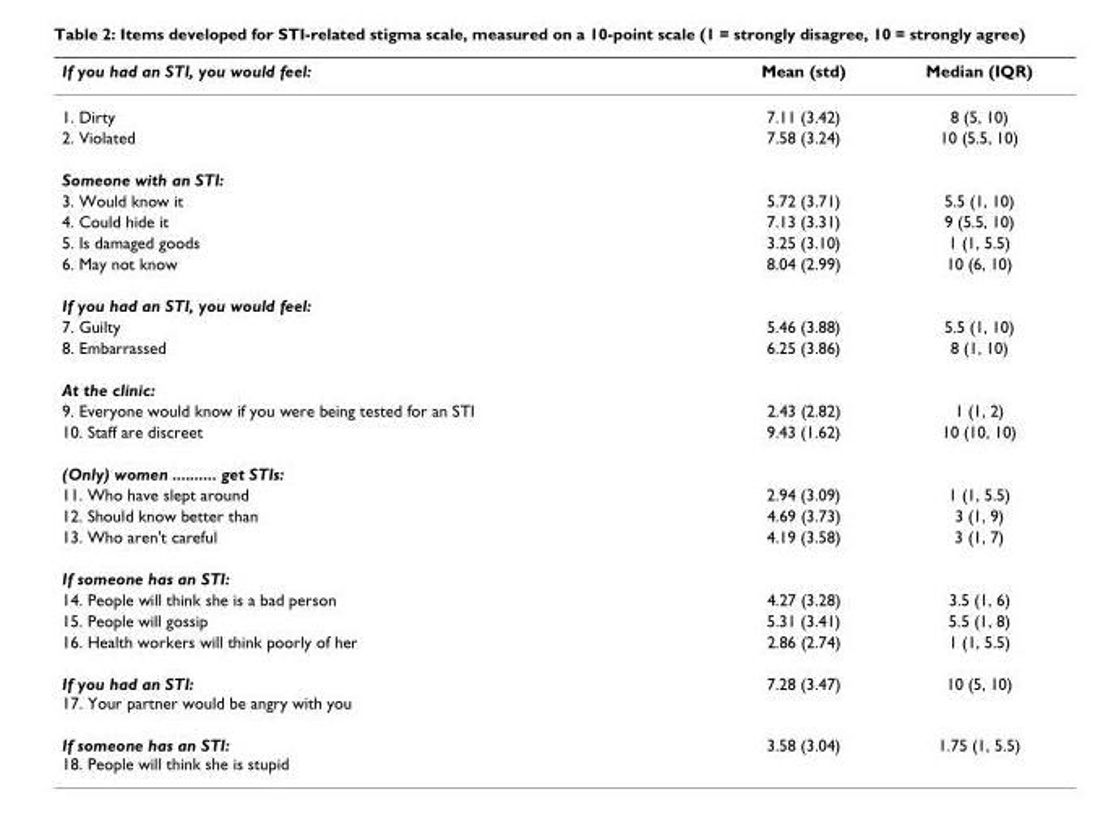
<table><thead><tr><td>If you had an STI, you would feel:</td><td>Mean (std)</td><td>Median (IQR)</td></tr></thead><tbody><tr><td>1. Dirty</td><td>7.11 (3.42)</td><td>8 (5, 10)</td></tr><tr><td>2. Violated</td><td>7.58 (3.24)</td><td>10 (5.5, 10)</td></tr><tr><td colspan="3">Someone with an STI:</td></tr><tr><td>3. Would know it</td><td>5.72 (3.71)</td><td>5.5 (1, 10)</td></tr><tr><td>4. Could hide it</td><td>7.13 (3.31)</td><td>9 (5.5, 10)</td></tr><tr><td>5. Is damaged goods</td><td>3.25 (3.10)</td><td>1 (1, 5.5)</td></tr><tr><td>6. May not know</td><td>8.04 (2.99)</td><td>10 (6, 10)</td></tr><tr><td colspan="3">If you had an STI, you would feel:</td></tr><tr><td>7. Guilty</td><td>5.46 (3.88)</td><td>5.5 (1, 10)</td></tr><tr><td>8. Embarrassed</td><td>6.25 (3.86)</td><td>8 (1, 10)</td></tr><tr><td colspan="3">At the clinic:</td></tr><tr><td>9. Everyone would know if you were being tested for an STI</td><td>2.43 (2.82)</td><td>1 (1, 2)</td></tr><tr><td>10. Staff are discreet</td><td>9.43 (1.62)</td><td>10 (10, 10)</td></tr><tr><td colspan="3">(Only) women .......... get STIs:</td></tr><tr><td>11. Who have slept around</td><td>2.94 (3.09)</td><td>1 (1, 5.5)</td></tr><tr><td>12. Should know better than</td><td>4.69 (3.73)</td><td>3 (1, 9)</td></tr><tr><td>13. Who aren&#x27;t careful</td><td>4.19 (3.58)</td><td>3 (1, 7)</td></tr><tr><td colspan="3">If someone has an STI:</td></tr><tr><td>14. People will think she is a bad person</td><td>4.27 (3.28)</td><td>3.5 (1, 6)</td></tr><tr><td>15. People will gossip</td><td>5.31 (3.41)</td><td>5.5 (1, 8)</td></tr><tr><td>16. Health workers will think poorly of her</td><td>2.86 (2.74)</td><td>1 (1, 5.5)</td></tr><tr><td>If you had an STI: 17. Your partner would be angry with you</td><td>7.28 (3.47)</td><td>10 (5, 10)</td></tr><tr><td>If someone has an STI: 18. People will think she is stupid</td><td>3.58 (3.04)</td><td>1.75 (1, 5.5)</td></tr></tbody></table>